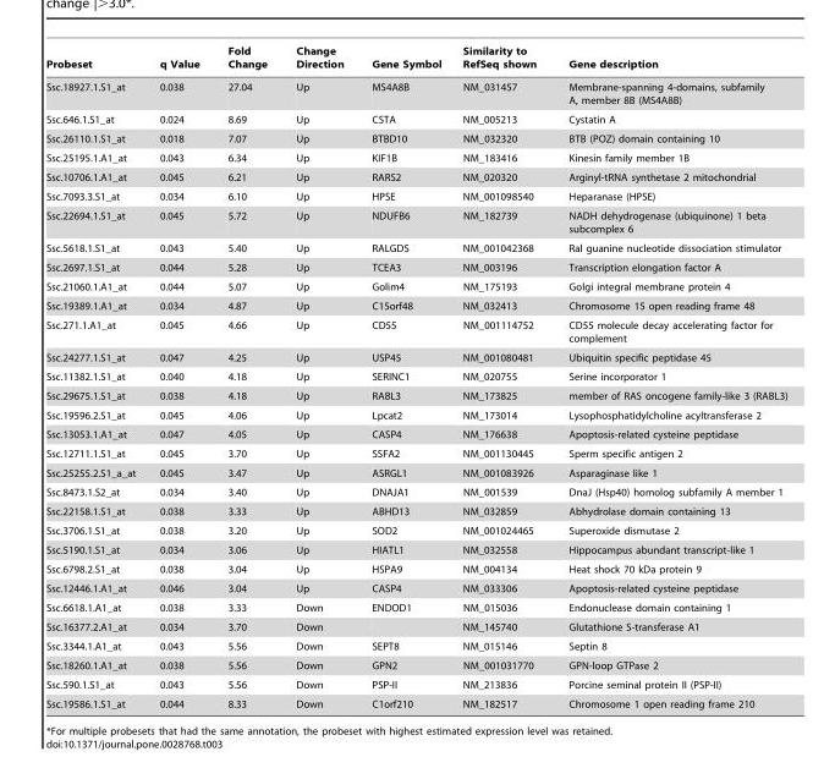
<table><thead><tr><td>Probeset</td><td>q Value</td><td>Fold Change</td><td>Change Direction</td><td>Gene Symbol</td><td>Similarity to RefSeq shown</td><td>Gene description</td></tr></thead><tbody><tr><td>Ssc.18927.1.S1_at</td><td>0.038</td><td>27.04</td><td>Up</td><td>MS4A8B</td><td>NM_031457</td><td>Membrane-spanning 4-domains, subfamily A, member 8B (MS4A8B)</td></tr><tr><td>Ssc.646.1.S1_at</td><td>0.024</td><td>8.69</td><td>Up</td><td>CSTA</td><td>NM_005213</td><td>Cystatin A</td></tr><tr><td>Ssc.26110.1.S1_at</td><td>0.018</td><td>7.07</td><td>Up</td><td>BTBD10</td><td>NM_032320</td><td>BTB (POZ) domain containing 10</td></tr><tr><td>Ssc.25195.1.A1_at</td><td>0.043</td><td>6.34</td><td>Up</td><td>KIF1B</td><td>NM_183416</td><td>Kinesin family member 1B</td></tr><tr><td>Ssc.10706.1.A1_at</td><td>0.045</td><td>6.21</td><td>Up</td><td>RARS2</td><td>NM_020320</td><td>Arginyl-tRNA synthetase 2 mitochondrial</td></tr><tr><td>Ssc.7093.3.S1_at</td><td>0.034</td><td>6.10</td><td>Up</td><td>HPSE</td><td>NM_001098540</td><td>Heparanase (HPSE)</td></tr><tr><td>Ssc.22694.1.S1_at</td><td>0.045</td><td>5.72</td><td>Up</td><td>NDUFB6</td><td>NM_182739</td><td>NADH dehydrogenase (ubiquinone) 1 beta subcomplex 6</td></tr><tr><td>Ssc.5618.1.S1_at</td><td>0.043</td><td>5.40</td><td>Up</td><td>RALGDS</td><td>NM_001042368</td><td>Ral guanine nucleotide dissociation stimulator</td></tr><tr><td>Ssc.2697.1.S1_at</td><td>0.044</td><td>5.28</td><td>Up</td><td>TCEA3</td><td>NM_003196</td><td>Transcription elongation factor A</td></tr><tr><td>Ssc.21060.1.A1_at</td><td>0.044</td><td>5.07</td><td>Up</td><td>Golim4</td><td>NM_175193</td><td>Golgi integral membrane protein 4</td></tr><tr><td>Ssc.19389.1.A1_at</td><td>0.034</td><td>4.87</td><td>Up</td><td>C15orf48</td><td>NM_032413</td><td>Chromosome 15 open reading frame 48</td></tr><tr><td>Ssc.271.1.A1_at</td><td>0.045</td><td>4.66</td><td>Up</td><td>CD55</td><td>NM_001114752</td><td>CD55 molecule decay accelerating factor for complement</td></tr><tr><td>Ssc.24277.1.S1_at</td><td>0.047</td><td>4.25</td><td>Up</td><td>USP45</td><td>NM_001080481</td><td>Ubiquitin specific peptidase 45</td></tr><tr><td>Ssc.11382.1.S1_at</td><td>0.040</td><td>4.18</td><td>Up</td><td>SERINC1</td><td>NM_020755</td><td>Serine incorporator 1</td></tr><tr><td>Ssc.29675.1.S1_at</td><td>0.038</td><td>4.18</td><td>Up</td><td>RABL3</td><td>NM_173825</td><td>member of RAS oncogene family-like 3 (RABL3)</td></tr><tr><td>Ssc.19596.2.S1_at</td><td>0.045</td><td>4.06</td><td>Up</td><td>Lpcat2</td><td>NM_173014</td><td>Lysophosphatidylcholine acyltransferase 2</td></tr><tr><td>Ssc.13053.1.A1_at</td><td>0.047</td><td>4.05</td><td>Up</td><td>CASP4</td><td>NM_176638</td><td>Apoptosis-related cysteine peptidase</td></tr><tr><td>Ssc.12711.1.S1_at</td><td>0.045</td><td>3.70</td><td>Up</td><td>SSFA2</td><td>NM_001130445</td><td>Sperm specific antigen 2</td></tr><tr><td>Ssc.25255.2.S1_a_at</td><td>0.045</td><td>3.47</td><td>Up</td><td>ASRGL1</td><td>NM_001083926</td><td>Asparaginase like 1</td></tr><tr><td>Ssc.8473.1.S2_at</td><td>0.034</td><td>3.40</td><td>Up</td><td>DNAJA1</td><td>NM_001539</td><td>DnaJ (Hsp40) homolog subfamily A member 1</td></tr><tr><td>Ssc.22158.1.S1_at</td><td>0.038</td><td>3.33</td><td>Up</td><td>ABHD13</td><td>NM_032859</td><td>Abhydrolase domain containing 13</td></tr><tr><td>Ssc.3706.1.S1_at</td><td>0.038</td><td>3.20</td><td>Up</td><td>SOD2</td><td>NM_001024465</td><td>Superoxide dismutase 2</td></tr><tr><td>Ssc.5190.1.S1_at</td><td>0.034</td><td>3.06</td><td>Up</td><td>HIATL1</td><td>NM_032558</td><td>Hippocampus abundant transcript-like 1</td></tr><tr><td>Ssc.6798.2.S1_at</td><td>0.038</td><td>3.04</td><td>Up</td><td>HSPA9</td><td>NM_004134</td><td>Heat shock 70 kDa protein 9</td></tr><tr><td>Ssc.12446.1.A1_at</td><td>0.046</td><td>3.04</td><td>Up</td><td>CASP4</td><td>NM_033306</td><td>Apoptosis-related cysteine peptidase</td></tr><tr><td>Ssc.6618.1.A1_at</td><td>0.038</td><td>3.33</td><td>Down</td><td>ENDOD1</td><td>NM_015036</td><td>Endonuclease domain containing 1</td></tr><tr><td>Ssc.16377.2.A1_at</td><td>0.034</td><td>3.70</td><td>Down</td><td></td><td>NM_145740</td><td>Glutathione S-transferase A1</td></tr><tr><td>Ssc.3344.1.A1_at</td><td>0.043</td><td>5.56</td><td>Down</td><td>SEPT8</td><td>NM_015146</td><td>Septin 8</td></tr><tr><td>Ssc.18260.1.A1_at</td><td>0.038</td><td>5.56</td><td>Down</td><td>GPN2</td><td>NM_001031770</td><td>GPN-loop GTPase 2</td></tr><tr><td>Ssc.590.1.S1_at</td><td>0.043</td><td>5.56</td><td>Down</td><td>PSP-II</td><td>NM_213836</td><td>Porcine seminal protein II (PSP-II)</td></tr><tr><td>Ssc.19586.1.S1_at</td><td>0.044</td><td>8.33</td><td>Down</td><td>C1orf210</td><td>NM_182517</td><td>Chromosome 1 open reading frame 210</td></tr></tbody></table>